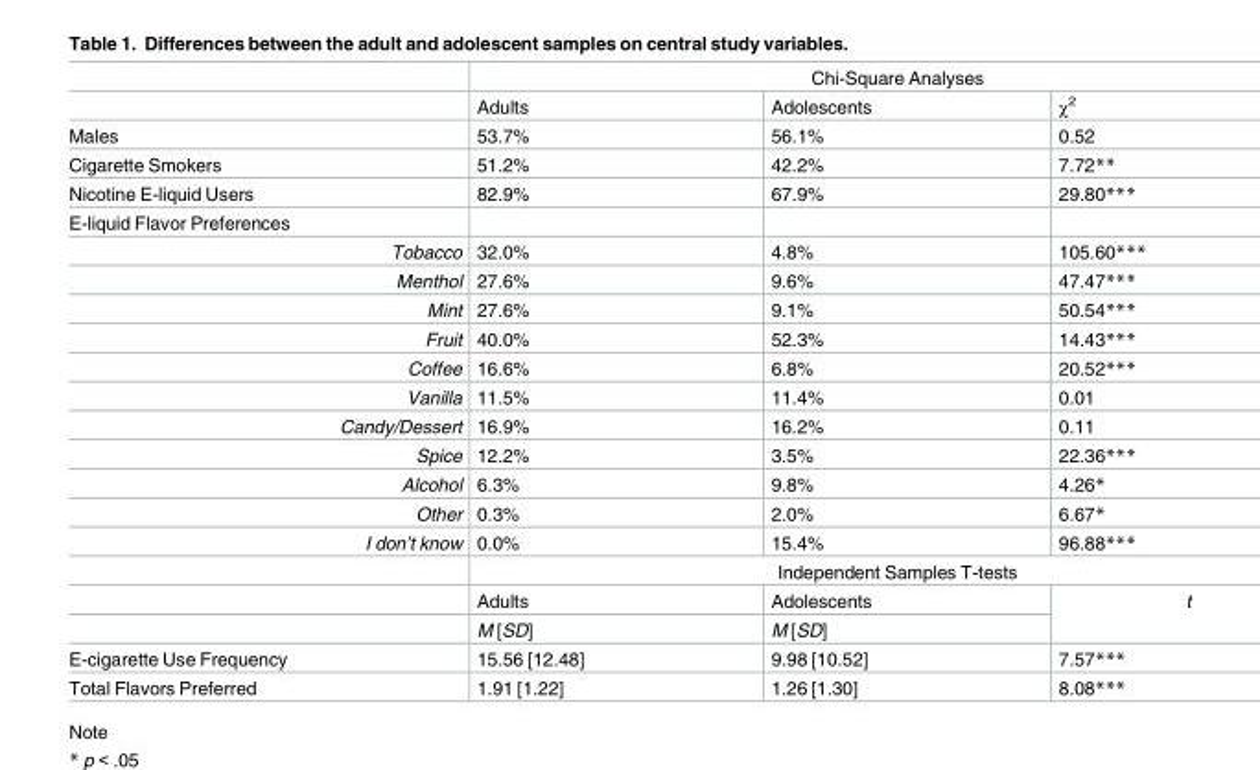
<table><thead><tr><td rowspan="2"></td><td colspan="3">Chi-Square Analyses</td></tr><tr><td>Adults</td><td>Adolescents</td><td>χ<sup>2</sup></td></tr></thead><tbody><tr><td>Males</td><td>53.7%</td><td>56.1%</td><td>0.52</td></tr><tr><td>Cigarette Smokers</td><td>51.2%</td><td>42.2%</td><td>7.72**</td></tr><tr><td>Nicotine E-liquid Users</td><td>82.9%</td><td>67.9%</td><td>29.80***</td></tr><tr><td colspan="4">E-liquid Flavor Preferences</td></tr><tr><td>Tobacco</td><td>32.0%</td><td>4.8%</td><td>105.60***</td></tr><tr><td>Menthol</td><td>27.6%</td><td>9.6%</td><td>47.47***</td></tr><tr><td>Mint</td><td>27.6%</td><td>9.1%</td><td>50.54***</td></tr><tr><td>Fruit</td><td>40.0%</td><td>52.3%</td><td>14.43***</td></tr><tr><td>Coffee</td><td>16.6%</td><td>6.8%</td><td>20.52***</td></tr><tr><td>Vanilla</td><td>11.5%</td><td>11.4%</td><td>0.01</td></tr><tr><td>Candy/Dessert</td><td>16.9%</td><td>16.2%</td><td>0.11</td></tr><tr><td>Spice</td><td>12.2%</td><td>3.5%</td><td>22.36***</td></tr><tr><td>Alcohol</td><td>6.3%</td><td>9.8%</td><td>4.26*</td></tr><tr><td>Other</td><td>0.3%</td><td>2.0%</td><td>6.67*</td></tr><tr><td rowspan="4">I don’t know</td><td>0.0%</td><td>15.4%</td><td>96.88***</td></tr><tr><td colspan="3">Independent Samples T-tests</td></tr><tr><td>Adults</td><td>Adolescents</td><td rowspan="2">t</td></tr><tr><td>M [SD]</td><td>M [SD]</td></tr><tr><td>E-cigarette Use Frequency</td><td>15.56 [12.48]</td><td>9.98 [10.52]</td><td>7.57***</td></tr><tr><td>Total Flavors Preferred</td><td>1.91 [1.22]</td><td>1.26 [1.30]</td><td>8.08***</td></tr></tbody></table>